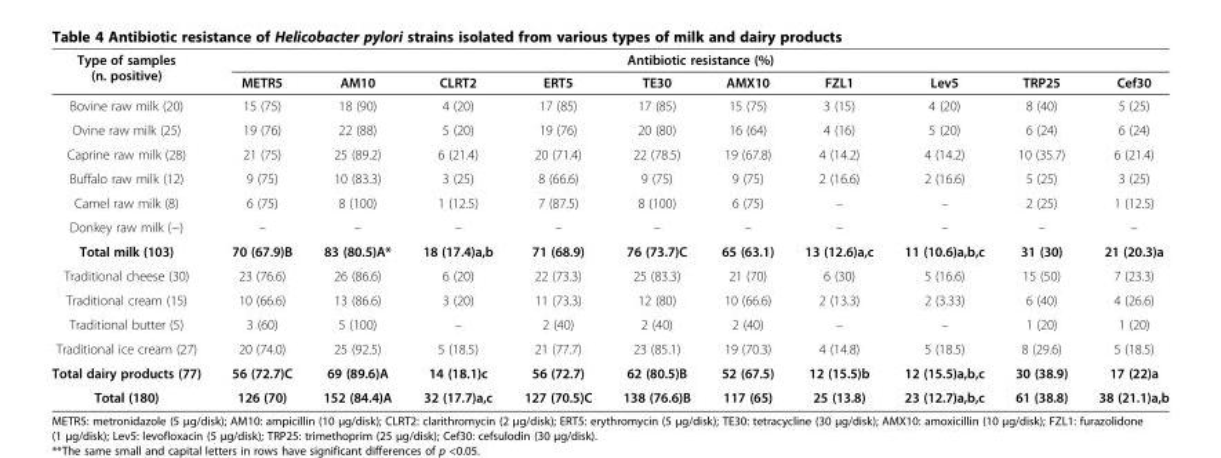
<table><thead><tr><td rowspan="2">Type of samples (n. positive)</td><td colspan="10">Antibiotic resistance (%)</td></tr><tr><td>METR5</td><td>AM10</td><td>CLRT2</td><td>ERT5</td><td>TE30</td><td>AMX10</td><td>FZL1</td><td>Lev5</td><td>TRP25</td><td>Cef30</td></tr></thead><tbody><tr><td>Bovine raw milk (20)</td><td>15 (75)</td><td>18 (90)</td><td>4 (20)</td><td>17 (85)</td><td>17 (85)</td><td>15 (75)</td><td>3 (15)</td><td>4 (20)</td><td>8 (40)</td><td>5 (25)</td></tr><tr><td>Ovine raw milk (25)</td><td>19 (76)</td><td>22 (88)</td><td>5 (20)</td><td>19 (76)</td><td>20 (80)</td><td>16 (64)</td><td>4 (16)</td><td>5 (20)</td><td>6 (24)</td><td>6 (24)</td></tr><tr><td>Caprine raw milk (28)</td><td>21 (75)</td><td>25 (89.2)</td><td>6 (21.4)</td><td>20 (71.4)</td><td>22 (78.5)</td><td>19 (67.8)</td><td>4 (14.2)</td><td>4 (14.2)</td><td>10 (35.7)</td><td>6 (21.4)</td></tr><tr><td>Buffalo raw milk (12)</td><td>9 (75)</td><td>10 (83.3)</td><td>3 (25)</td><td>8 (66.6)</td><td>9 (75)</td><td>9 (75)</td><td>2 (16.6)</td><td>2 (16.6)</td><td>5 (25)</td><td>3 (25)</td></tr><tr><td>Camel raw milk (8)</td><td>6 (75)</td><td>8 (100)</td><td>1 (12.5)</td><td>7 (87.5)</td><td>8 (100)</td><td>6 (75)</td><td>–</td><td>–</td><td>2 (25)</td><td>1 (12.5)</td></tr><tr><td>Donkey raw milk (−)</td><td>–</td><td>–</td><td>–</td><td>–</td><td>–</td><td>–</td><td>–</td><td>–</td><td>–</td><td>–</td></tr><tr><td>Total milk (103)</td><td>70 (67.9)B</td><td>83 (80.5)A*</td><td>18 (17.4)a,b</td><td>71 (68.9)</td><td>76 (73.7)C</td><td>65 (63.1)</td><td>13 (12.6)a,c</td><td>11 (10.6)a,b,c</td><td>31 (30)</td><td>21 (20.3)a</td></tr><tr><td>Traditional cheese (30)</td><td>23 (76.6)</td><td>26 (86.6)</td><td>6 (20)</td><td>22 (73.3)</td><td>25 (83.3)</td><td>21 (70)</td><td>6 (30)</td><td>5 (16.6)</td><td>15 (50)</td><td>7 (23.3)</td></tr><tr><td>Traditional cream (15)</td><td>10 (66.6)</td><td>13 (86.6)</td><td>3 (20)</td><td>11 (73.3)</td><td>12 (80)</td><td>10 (66.6)</td><td>2 (13.3)</td><td>2 (3.33)</td><td>6 (40)</td><td>4 (26.6)</td></tr><tr><td>Traditional butter (5)</td><td>3 (60)</td><td>5 (100)</td><td>–</td><td>2 (40)</td><td>2 (40)</td><td>2 (40)</td><td>–</td><td>–</td><td>1 (20)</td><td>1 (20)</td></tr><tr><td>Traditional ice cream (27)</td><td>20 (74.0)</td><td>25 (92.5)</td><td>5 (18.5)</td><td>21 (77.7)</td><td>23 (85.1)</td><td>19 (70.3)</td><td>4 (14.8)</td><td>5 (18.5)</td><td>8 (29.6)</td><td>5 (18.5)</td></tr><tr><td>Total dairy products (77)</td><td>56 (72.7)C</td><td>69 (89.6)A</td><td>14 (18.1)c</td><td>56 (72.7)</td><td>62 (80.5)B</td><td>52 (67.5)</td><td>12 (15.5)b</td><td>12 (15.5)a,b,c</td><td>30 (38.9)</td><td>17 (22)a</td></tr><tr><td>Total (180)</td><td>126 (70)</td><td>152 (84.4)A</td><td>32 (17.7)a,c</td><td>127 (70.5)C</td><td>138 (76.6)B</td><td>117 (65)</td><td>25 (13.8)</td><td>23 (12.7)a,b,c</td><td>61 (38.8)</td><td>38 (21.1)a,b</td></tr></tbody></table>